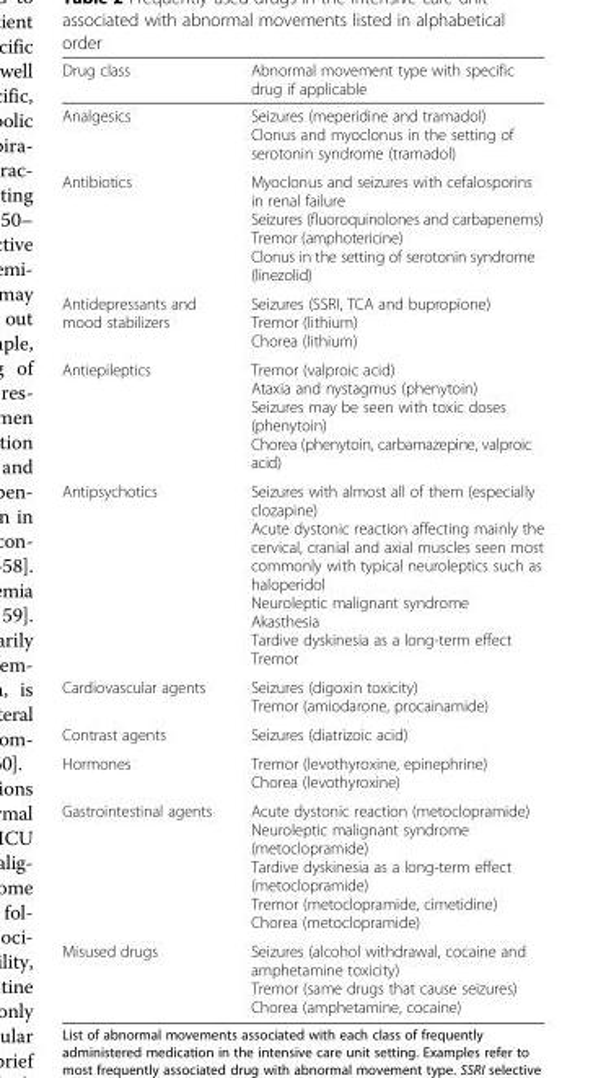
<table><thead><tr><td>Drug class</td><td>Abnormal movement type with specific drug if applicable</td></tr></thead><tbody><tr><td>Analgesics</td><td>Seizures (meperidine and tramadol) Clonus and myoclonus in the setting of serotonin syndrome (tramadol)</td></tr><tr><td>Antibiotics</td><td>Myoclonus and seizures with cefalosporins in renal failure Seizures (fluoroquinolones and carbapenems) Tremor (amphotericine) Clonus in the setting of serotonin syndrome (linezolid)</td></tr><tr><td>Antidepressants and mood stabilizers</td><td>Seizures (SSRI, TCA and bupropione) Tremor (lithium) Chorea (lithium)</td></tr><tr><td>Antiepileptics</td><td>Tremor (valproic acid) Ataxia and nystagmus (phenytoin) Seizures may be seen with toxic doses (phenytoin) Chorea (phenytoin, carbamazepine, valproic acid)</td></tr><tr><td>Antipsychotics</td><td>Seizures with almost all of them (especially clozapine) Acute dystonic reaction affecting mainly the cervical, cranial and axial muscles seen most commonly with typical neuroleptics such as haloperidol Neuroleptic malignant syndrome Akasthesia Tardive dyskinesia as a long-term effect Tremor</td></tr><tr><td>Cardiovascular agents</td><td>Seizures (digoxin toxicity) Tremor (amiodarone, procainamide)</td></tr><tr><td>Contrast agents</td><td>Seizures (diatrizoic acid)</td></tr><tr><td>Hormones</td><td>Tremor (levothyroxine, epinephrine) Chorea (levothyroxine)</td></tr><tr><td>Gastrointestinal agents</td><td>Acute dystonic reaction (metoclopramide) Neuroleptic malignant syndrome (metoclopramide) Tardive dyskinesia as a long-term effect (metoclopramide) Tremor (metoclopramide, cimetidine) Chorea (metoclopramide)</td></tr><tr><td>Misused drugs</td><td>Seizures (alcohol withdrawal, cocaine and amphetamine toxicity) Tremor (same drugs that cause seizures) Chorea (amphetamine, cocaine)</td></tr></tbody></table>